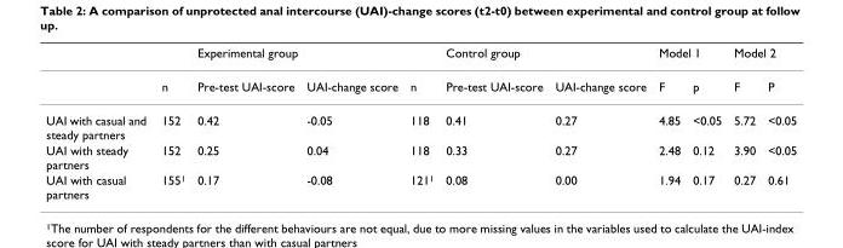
<table><thead><tr><td rowspan="2"></td><td rowspan="2">n</td><td colspan="2">Experimental group</td><td rowspan="2">n</td><td colspan="2">Control group</td><td colspan="2">Model 1</td><td colspan="2">Model 2</td></tr><tr><td>Pre-test UAI-score</td><td>UAI-change score</td><td>Pre-test UAI-score</td><td>UAI-change score</td><td>F</td><td>p</td><td>F</td><td>P</td></tr></thead><tbody><tr><td>UAI with casual and steady partners</td><td>152</td><td>0.42</td><td>-0.05</td><td>118</td><td>0.41</td><td>0.27</td><td>4.85</td><td>&lt;0.05</td><td>5.72</td><td>&lt;0.05</td></tr><tr><td>UAI with steady partners</td><td>152</td><td>0.25</td><td>0.04</td><td>118</td><td>0.33</td><td>0.27</td><td>2.48</td><td>0.12</td><td>3.90</td><td>&lt;0.05</td></tr><tr><td>UAI with casual partners</td><td>155<sup>1</sup></td><td>0.17</td><td>-0.08</td><td>121<sup>1</sup></td><td>0.08</td><td>0.00</td><td>1.94</td><td>0.17</td><td>0.27</td><td>0.61</td></tr></tbody></table>